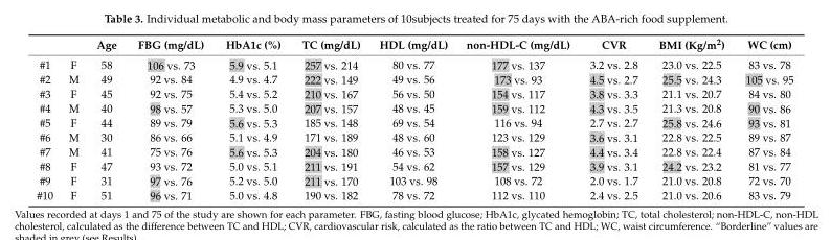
<table><thead><tr><td></td><td></td><td>Age</td><td>FBG (mg/dL)</td><td>HbA1c (%)</td><td>TC (mg/dL)</td><td>HDL (mg/dL)</td><td>non-HDL-C (mg/dL)</td><td>CVR</td><td>BMI (Kg/m<sup>2</sup>)</td><td>WC (cm)</td></tr></thead><tbody><tr><td>#1</td><td>F</td><td>58</td><td>106 vs. 73</td><td>5.9 vs. 5.1</td><td>257 vs. 214</td><td>80 vs. 77</td><td>177 vs. 137</td><td>3.2 vs. 2.8</td><td>23.0 vs. 22.5</td><td>83 vs. 78</td></tr><tr><td>#2</td><td>M</td><td>49</td><td>92 vs. 84</td><td>4.9 vs. 4.7</td><td>222 vs. 149</td><td>49 vs. 56</td><td>173 vs. 93</td><td>4.5 vs. 2.7</td><td>25.5 vs. 24.3</td><td>105 vs. 95</td></tr><tr><td>#3</td><td>F</td><td>45</td><td>92 vs. 75</td><td>5.4 vs. 5.2</td><td>210 vs. 167</td><td>56 vs. 50</td><td>154 vs. 117</td><td>3.8 vs. 3.3</td><td>21.1 vs. 20.7</td><td>84 vs. 80</td></tr><tr><td>#4</td><td>M</td><td>40</td><td>98 vs. 57</td><td>5.3 vs. 5.0</td><td>207 vs. 157</td><td>48 vs. 45</td><td>159 vs. 112</td><td>4.3 vs. 3.5</td><td>21.3 vs. 20.8</td><td>90 vs. 86</td></tr><tr><td>#5</td><td>F</td><td>44</td><td>89 vs. 79</td><td>5.6 vs. 5.3</td><td>185 vs. 148</td><td>69 vs. 54</td><td>116 vs. 94</td><td>2.7 vs. 2.7</td><td>25.8 vs. 24.6</td><td>93 vs. 81</td></tr><tr><td>#6</td><td>M</td><td>30</td><td>86 vs. 66</td><td>5.1 vs. 4.9</td><td>171 vs. 189</td><td>48 vs. 60</td><td>123 vs. 129</td><td>3.6 vs. 3.1</td><td>22.8 vs. 22.5</td><td>89 vs. 87</td></tr><tr><td>#7</td><td>M</td><td>41</td><td>75 vs. 76</td><td>5.6 vs. 5.3</td><td>204 vs. 180</td><td>46 vs. 53</td><td>158 vs. 127</td><td>4.4 vs. 3.4</td><td>22.8 vs. 22.4</td><td>87 vs. 84</td></tr><tr><td>#8</td><td>F</td><td>47</td><td>93 vs. 72</td><td>5.0 vs. 5.1</td><td>211 vs. 191</td><td>54 vs. 62</td><td>157 vs. 129</td><td>3.9 vs. 3.1</td><td>24.2 vs. 23.2</td><td>81 vs. 77</td></tr><tr><td>#9</td><td>F</td><td>31</td><td>97 vs. 76</td><td>5.2 vs. 5.0</td><td>211 vs. 170</td><td>103 vs. 98</td><td>108 vs. 72</td><td>2.0 vs. 1.7</td><td>21.0 vs. 20.8</td><td>72 vs. 70</td></tr><tr><td>#10</td><td>F</td><td>51</td><td>96 vs. 71</td><td>5.0 vs. 4.8</td><td>190 vs. 182</td><td>78 vs. 72</td><td>112 vs. 110</td><td>2.4 vs. 2.5</td><td>21.0 vs. 20.6</td><td>83 vs. 79</td></tr></tbody></table>